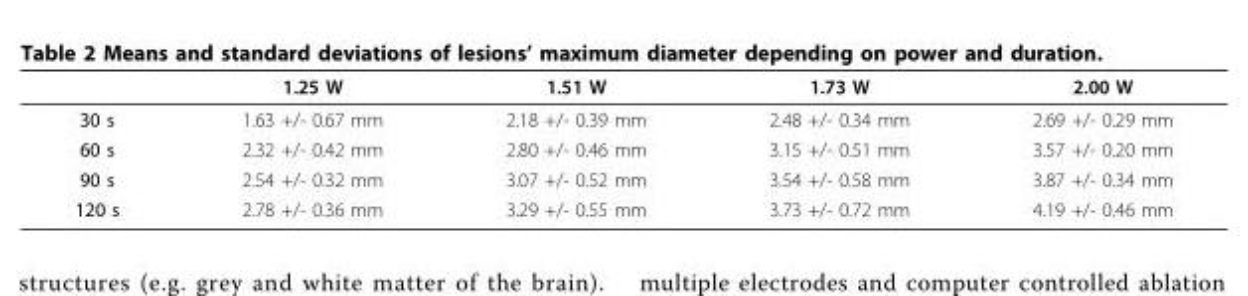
<table><thead><tr><td></td><td>1.25 W</td><td>1.51 W</td><td>1.73 W</td><td>2.00 W</td></tr></thead><tbody><tr><td>30 s</td><td>1.63 +/- 0.67 mm</td><td>2.18 +/- 0.39 mm</td><td>2.48 +/- 0.34 mm</td><td>2.69 +/- 0.29 mm</td></tr><tr><td>60 s</td><td>2.32 +/- 0.42 mm</td><td>2.80 +/- 0.46 mm</td><td>3.15 +/- 0.51 mm</td><td>3.57 +/- 0.20 mm</td></tr><tr><td>90 s</td><td>2.54 +/- 0.32 mm</td><td>3.07 +/- 0.52 mm</td><td>3.54 +/- 0.58 mm</td><td>3.87 +/- 0.34 mm</td></tr><tr><td>120 s</td><td>2.78 +/- 0.36 mm</td><td>3.29 +/- 0.55 mm</td><td>3.73 +/- 0.72 mm</td><td>4.19 +/- 0.46 mm</td></tr></tbody></table>